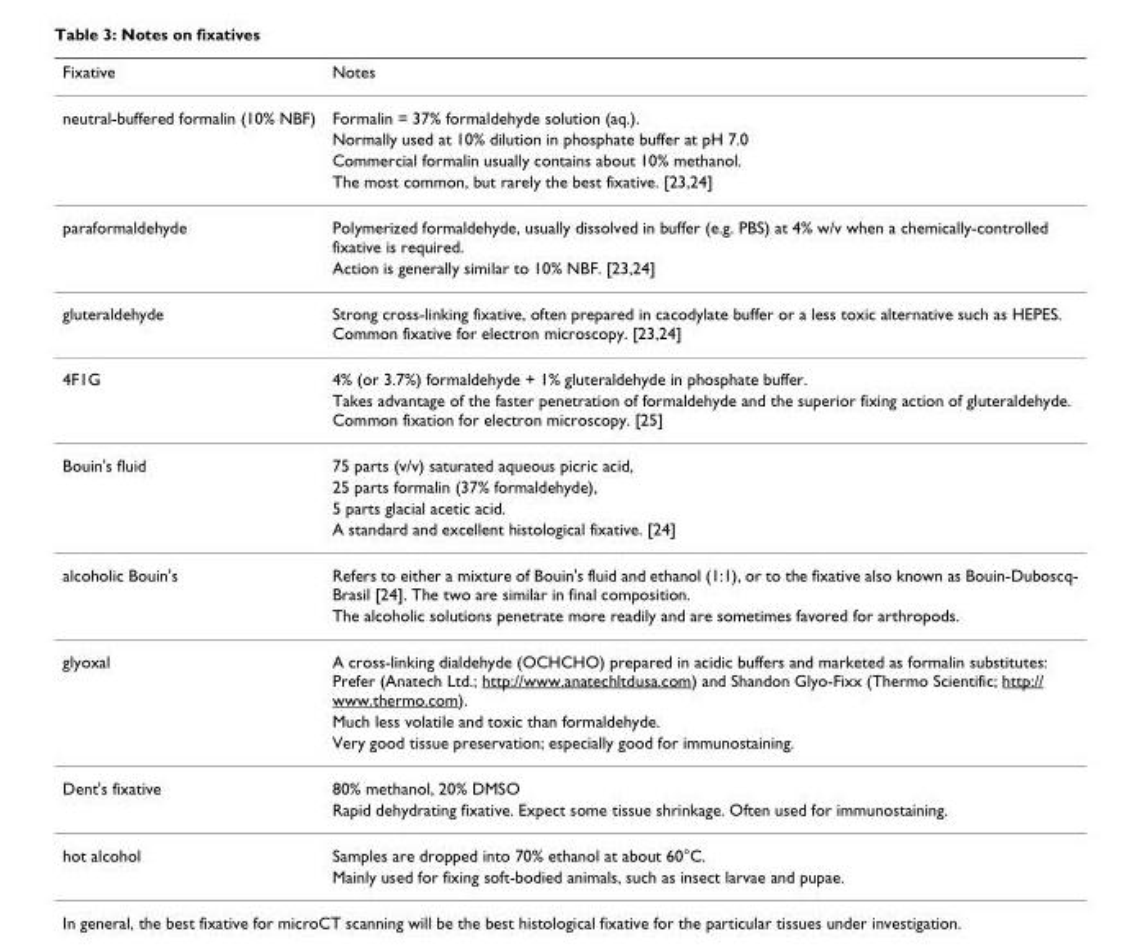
<table><thead><tr><td>Fixative</td><td>Notes</td></tr></thead><tbody><tr><td rowspan="4">neutral-buffered formalin (10% NBF)</td><td>Formalin = 37% formaldehyde solution (aq.).</td></tr><tr><td>Normally used at 10% dilution in phosphate buffer at pH 7.0</td></tr><tr><td>Commercial formalin usually contains about 10% methanol.</td></tr><tr><td>The most common, but rarely the best fixative. [23,24]</td></tr><tr><td rowspan="2">paraformaldehyde</td><td>Polymerized formaldehyde, usually dissolved in buffer (e.g. PBS) at 4% w/v when a chemically-controlled fixative is required.</td></tr><tr><td>Action is generally similar to 10% NBF. [23,24]</td></tr><tr><td>gluteraldehyde</td><td>Strong cross-linking fixative, often prepared in cacodylate buffer or a less toxic alternative such as HEPES. Common fixative for electron microscopy. [23,24]</td></tr><tr><td rowspan="2">4F1G</td><td>4% (or 3.7%) formaldehyde + 1% gluteraldehyde in phosphate buffer.</td></tr><tr><td>Takes advantage of the faster penetration of formaldehyde and the superior fixing action of gluteraldehyde. Common fixation for electron microscopy. [25]</td></tr><tr><td rowspan="4">Bouin&#x27;s fluid</td><td>75 parts (v/v) saturated aqueous picric acid,</td></tr><tr><td>25 parts formalin (37% formaldehyde),</td></tr><tr><td>5 parts glacial acetic acid.</td></tr><tr><td>A standard and excellent histological fixative. [24]</td></tr><tr><td rowspan="2">alcoholic Bouin&#x27;s</td><td>Refers to either a mixture of Bouin&#x27;s fluid and ethanol (1:1), or to the fixative also known as Bouin-Duboscq- Brasil [24]. The two are similar in final composition.</td></tr><tr><td>The alcoholic solutions penetrate more readily and are sometimes favored for arthropods.</td></tr><tr><td rowspan="3">glyoxal</td><td>A cross-linking dialdehyde (OCHCHO) prepared in acidic buffers and marketed as formalin substitutes: Prefer (Anatech Ltd.; http://www.anatechltdusa.com) and Shandon Glyo-Fixx (Thermo Scientific; http:// www.thermo.com).</td></tr><tr><td>Much less volatile and toxic than formaldehyde.</td></tr><tr><td>Very good tissue preservation; especially good for immunostaining.</td></tr><tr><td rowspan="2">Dent&#x27;s fixative</td><td>80% methanol, 20% DMSO</td></tr><tr><td>Rapid dehydrating fixative. Expect some tissue shrinkage. Often used for immunostaining.</td></tr><tr><td rowspan="2">hot alcohol</td><td>Samples are dropped into 70% ethanol at about 60°C.</td></tr><tr><td>Mainly used for fixing soft-bodied animals, such as insect larvae and pupae.</td></tr></tbody></table>